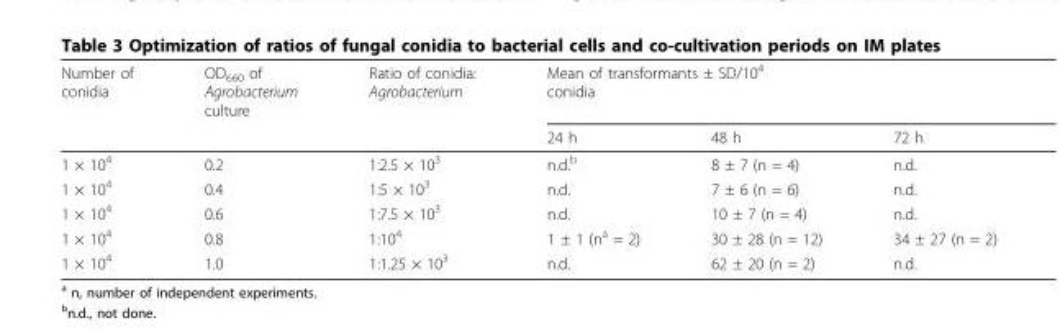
<table><thead><tr><td rowspan="2">Number of conidia</td><td rowspan="2">OD<sub>660</sub> of Agrobacterium culture</td><td rowspan="2">Ratio of conidia: Agrobacterium</td><td colspan="2">Mean of transformants ± SD/10<sup>4</sup> conidia</td><td rowspan="2">72 h</td></tr><tr><td>24 h</td><td>48 h</td></tr></thead><tbody><tr><td>1 × 10<sup>4</sup></td><td>0.2</td><td>1:2.5 × 10<sup>3</sup></td><td>n.d.<sup>b</sup></td><td>8 ± 7 (n = 4)</td><td>n.d.</td></tr><tr><td>1 × 10<sup>4</sup></td><td>0.4</td><td>1:5 × 10<sup>3</sup></td><td>n.d.</td><td>7 ± 6 (n = 6)</td><td>n.d.</td></tr><tr><td>1 × 10<sup>4</sup></td><td>0.6</td><td>1:7.5 × 10<sup>3</sup></td><td>n.d.</td><td>10 ± 7 (n = 4)</td><td>n.d.</td></tr><tr><td>1 × 10<sup>4</sup></td><td>0.8</td><td>1:10<sup>4</sup></td><td>1 ± 1 (n<sup>a</sup> = 2)</td><td>30 ± 28 (n = 12)</td><td>34 ± 27 (n = 2)</td></tr><tr><td>1 × 10<sup>4</sup></td><td>1.0</td><td>1:1.25 × 10<sup>3</sup></td><td>n.d.</td><td>62 ± 20 (n = 2)</td><td>n.d.</td></tr></tbody></table>